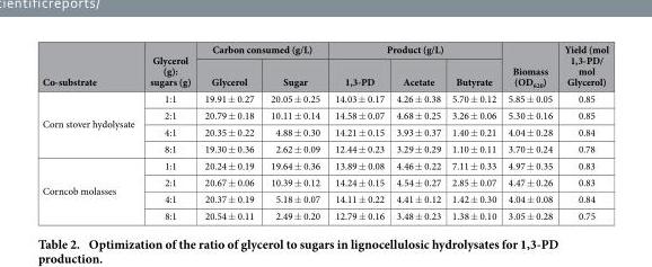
<table><thead><tr><td rowspan="2">Co-substrate</td><td rowspan="2">Glycerol (g): sugars (g)</td><td colspan="2">Carbon consumed (g/L)</td><td colspan="3">Product (g/L)</td><td rowspan="2">Biomass (OD<sub>620</sub>)</td><td rowspan="2">Yield (mol 1,3-PD/ mol Glycerol)</td></tr><tr><td>Glycerol</td><td>Sugar</td><td>1,3-PD</td><td>Acetate</td><td>Butyrate</td></tr></thead><tbody><tr><td rowspan="4">Corn stover hydolysate</td><td>1:1</td><td>19.91 ± 0.27</td><td>20.05 ± 0.25</td><td>14.03 ± 0.17</td><td>4.26 ± 0.38</td><td>5.70 ± 0.12</td><td>5.85 ± 0.05</td><td>0.85</td></tr><tr><td>2:1</td><td>20.79 ± 0.18</td><td>10.11 ± 0.14</td><td>14.58 ± 0.07</td><td>4.68 ± 0.25</td><td>3.26 ± 0.06</td><td>5.30 ± 0.16</td><td>0.85</td></tr><tr><td>4:1</td><td>20.35 ± 0.22</td><td>4.88 ± 0.30</td><td>14.21 ± 0.15</td><td>3.93 ± 0.37</td><td>1.40 ± 0.21</td><td>4.04 ± 0.28</td><td>0.84</td></tr><tr><td>8:1</td><td>19.30 ± 0.36</td><td>2.62 ± 0.09</td><td>12.44 ± 0.23</td><td>3.29 ± 0.29</td><td>1.10 ± 0.11</td><td>3.70 ± 0.24</td><td>0.78</td></tr><tr><td rowspan="4">Corncob molasses</td><td>1:1</td><td>20.24 ± 0.19</td><td>19.64 ± 0.36</td><td>13.89 ± 0.08</td><td>4.46 ± 0.22</td><td>7.11 ± 0.33</td><td>4.97 ± 0.35</td><td>0.83</td></tr><tr><td>2:1</td><td>20.67 ± 0.06</td><td>10.39 ± 0.12</td><td>14.24 ± 0.15</td><td>4.54 ± 0.27</td><td>2.85 ± 0.07</td><td>4.47 ± 0.26</td><td>0.83</td></tr><tr><td>4:1</td><td>20.37 ± 0.19</td><td>5.18 ± 0.07</td><td>14.11 ± 0.22</td><td>4.41 ± 0.12</td><td>1.42 ± 0.30</td><td>4.04 ± 0.08</td><td>0.84</td></tr><tr><td>8:1</td><td>20.54 ± 0.11</td><td>2.49 ± 0.20</td><td>12.79 ± 0.16</td><td>3.48 ± 0.23</td><td>1.38 ± 0.10</td><td>3.05 ± 0.28</td><td>0.75</td></tr></tbody></table>